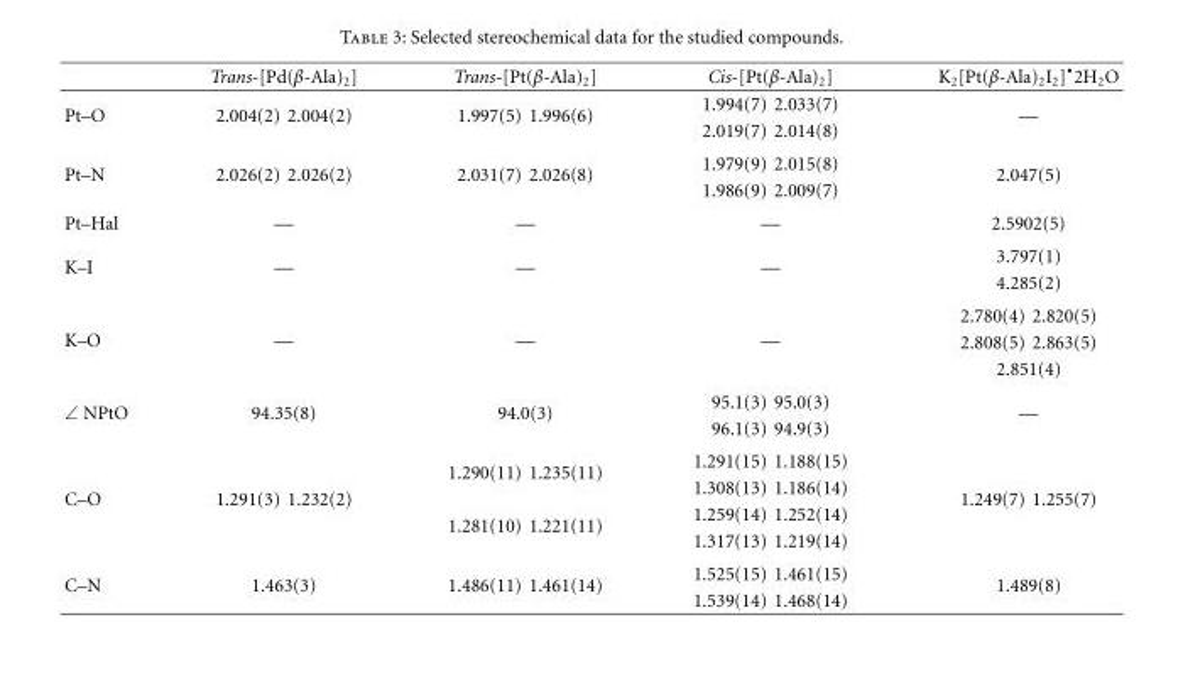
<table><thead><tr><td></td><td>Trans-[Pd(β-Ala)<sub>2</sub>]</td><td>Trans-[Pt(β-Ala)<sub>2</sub>]</td><td>Cis-[Pt(β-Ala)<sub>2</sub>]</td><td>K<sub>2</sub>[Pt(β-Ala)<sub>2</sub>I<sub>2</sub>]<sup>•</sup>2H<sub>2</sub>O</td></tr></thead><tbody><tr><td rowspan="2">Pt–O</td><td rowspan="2">2.004(2) 2.004(2)</td><td rowspan="2">1.997(5) 1.996(6)</td><td>1.994(7) 2.033(7)</td><td rowspan="2">—</td></tr><tr><td>2.019(7) 2.014(8)</td></tr><tr><td rowspan="2">Pt–N</td><td rowspan="2">2.026(2) 2.026(2)</td><td rowspan="2">2.031(7) 2.026(8)</td><td>1.979(9) 2.015(8)</td><td rowspan="2">2.047(5)</td></tr><tr><td>1.986(9) 2.009(7)</td></tr><tr><td>Pt–Hal</td><td>—</td><td>—</td><td>—</td><td>2.5902(5)</td></tr><tr><td rowspan="2">K–I</td><td rowspan="2">—</td><td rowspan="2">—</td><td rowspan="2">—</td><td>3.797(1)</td></tr><tr><td>4.285(2)</td></tr><tr><td rowspan="3">K–O</td><td rowspan="3">—</td><td rowspan="3">—</td><td rowspan="3">—</td><td>2.780(4) 2.820(5)</td></tr><tr><td>2.808(5) 2.863(5)</td></tr><tr><td>2.851(4)</td></tr><tr><td rowspan="2">∠ NPtO</td><td rowspan="2">94.35(8)</td><td rowspan="2">94.0(3)</td><td>95.1(3) 95.0(3)</td><td rowspan="2">—</td></tr><tr><td>96.1(3) 94.9(3)</td></tr><tr><td rowspan="4">C–O</td><td rowspan="4">1.291(3) 1.232(2)</td><td rowspan="2">1.290(11) 1.235(11)</td><td>1.291(15) 1.188(15)</td><td rowspan="4">1.249(7) 1.255(7)</td></tr><tr><td>1.308(13) 1.186(14)</td></tr><tr><td rowspan="2">1.281(10) 1.221(11)</td><td>1.259(14) 1.252(14)</td></tr><tr><td>1.317(13) 1.219(14)</td></tr><tr><td rowspan="2">C–N</td><td rowspan="2">1.463(3)</td><td rowspan="2">1.486(11) 1.461(14)</td><td>1.525(15) 1.461(15)</td><td rowspan="2">1.489(8)</td></tr><tr><td>1.539(14) 1.468(14)</td></tr></tbody></table>